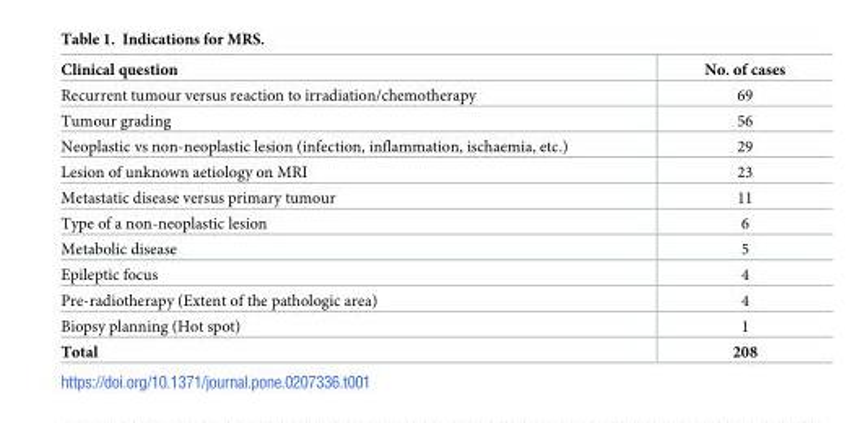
<table><thead><tr><td>Clinical question</td><td>No. of cases</td></tr></thead><tbody><tr><td>Recurrent tumour versus reaction to irradiation/chemotherapy</td><td>69</td></tr><tr><td>Tumour grading</td><td>56</td></tr><tr><td>Neoplastic vs non-neoplastic lesion (infection, inflammation, ischaemia, etc.)</td><td>29</td></tr><tr><td>Lesion of unknown aetiology on MRI</td><td>23</td></tr><tr><td>Metastatic disease versus primary tumour</td><td>11</td></tr><tr><td>Type of a non-neoplastic lesion</td><td>6</td></tr><tr><td>Metabolic disease</td><td>5</td></tr><tr><td>Epileptic focus</td><td>4</td></tr><tr><td>Pre-radiotherapy (Extent of the pathologic area)</td><td>4</td></tr><tr><td>Biopsy planning (Hot spot)</td><td>1</td></tr><tr><td>Total</td><td>208</td></tr></tbody></table>